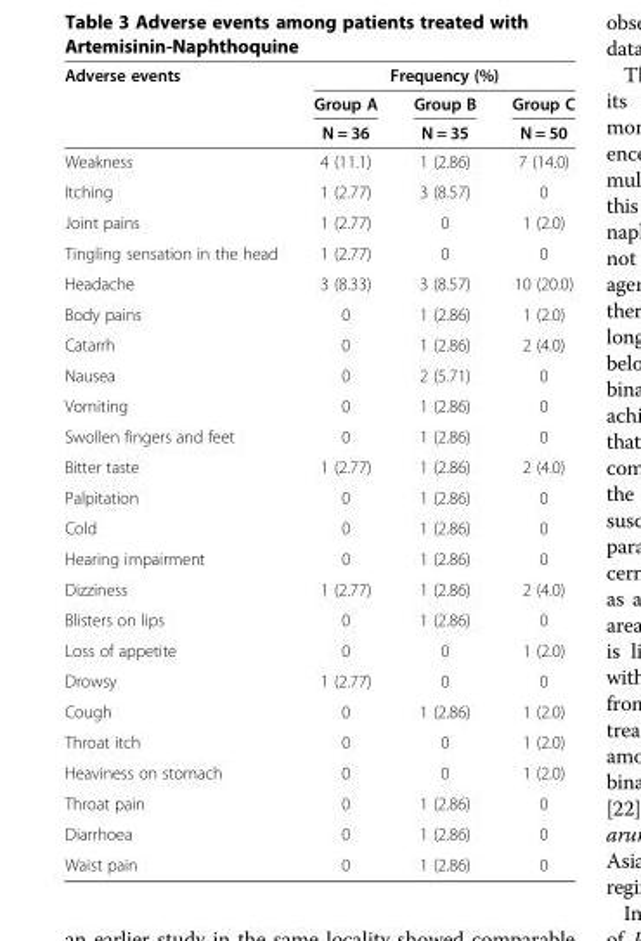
<table><thead><tr><td rowspan="3">Adverse events</td><td colspan="3">Frequency (%)</td></tr><tr><td rowspan="2">Group A N = 36</td><td rowspan="2">Group B N = 35</td><td rowspan="2">Group C N = 50</td></tr><tr></tr></thead><tbody><tr><td>Weakness</td><td>4 (11.1)</td><td>1 (2.86)</td><td>7 (14.0)</td></tr><tr><td>Itching</td><td>1 (2.77)</td><td>3 (8.57)</td><td>0</td></tr><tr><td>Joint pains</td><td>1 (2.77)</td><td>0</td><td>1 (2.0)</td></tr><tr><td>Tingling sensation in the head</td><td>1 (2.77)</td><td>0</td><td>0</td></tr><tr><td>Headache</td><td>3 (8.33)</td><td>3 (8.57)</td><td>10 (20.0)</td></tr><tr><td>Body pains</td><td>0</td><td>1 (2.86)</td><td>1 (2.0)</td></tr><tr><td>Catarrh</td><td>0</td><td>1 (2.86)</td><td>2 (4.0)</td></tr><tr><td>Nausea</td><td>0</td><td>2 (5.71)</td><td>0</td></tr><tr><td>Vomiting</td><td>0</td><td>1 (2.86)</td><td>0</td></tr><tr><td>Swollen fingers and feet</td><td>0</td><td>1 (2.86)</td><td>0</td></tr><tr><td>Bitter taste</td><td>1 (2.77)</td><td>1 (2.86)</td><td>2 (4.0)</td></tr><tr><td>Palpitation</td><td>0</td><td>1 (2.86)</td><td>0</td></tr><tr><td>Cold</td><td>0</td><td>1 (2.86)</td><td>0</td></tr><tr><td>Hearing impairment</td><td>0</td><td>1 (2.86)</td><td>0</td></tr><tr><td>Dizziness</td><td>1 (2.77)</td><td>1 (2.86)</td><td>2 (4.0)</td></tr><tr><td>Blisters on lips</td><td>0</td><td>1 (2.86)</td><td>0</td></tr><tr><td>Loss of appetite</td><td>0</td><td>0</td><td>1 (2.0)</td></tr><tr><td>Drowsy</td><td>1 (2.77)</td><td>0</td><td>0</td></tr><tr><td>Cough</td><td>0</td><td>1 (2.86)</td><td>1 (2.0)</td></tr><tr><td>Throat itch</td><td>0</td><td>0</td><td>1 (2.0)</td></tr><tr><td>Heaviness on stomach</td><td>0</td><td>0</td><td>1 (2.0)</td></tr><tr><td>Throat pain</td><td>0</td><td>1 (2.86)</td><td>0</td></tr><tr><td>Diarrhoea</td><td>0</td><td>1 (2.86)</td><td>0</td></tr><tr><td>Waist pain</td><td>0</td><td>1 (2.86)</td><td>0</td></tr></tbody></table>